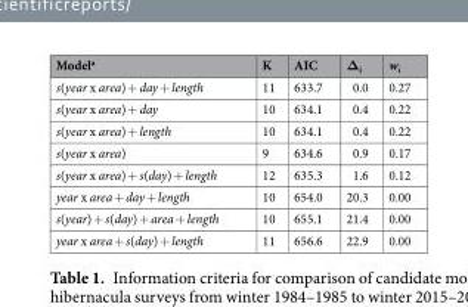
<table><thead><tr><td>Model<sup>a</sup></td><td>K</td><td>AIC</td><td>Δ<sub>i</sub></td><td>w<sub>i</sub></td></tr></thead><tbody><tr><td>s(year x area) + day + length</td><td>11</td><td>633.7</td><td>0.0</td><td>0.27</td></tr><tr><td>s(year x area) + day</td><td>10</td><td>634.1</td><td>0.4</td><td>0.22</td></tr><tr><td>s(year x area) + length</td><td>10</td><td>634.1</td><td>0.4</td><td>0.22</td></tr><tr><td>s(year x area)</td><td>9</td><td>634.6</td><td>0.9</td><td>0.17</td></tr><tr><td>s(year x area) + s(day) + length</td><td>12</td><td>635.3</td><td>1.6</td><td>0.12</td></tr><tr><td>year x area + day + length</td><td>10</td><td>654.0</td><td>20.3</td><td>0.00</td></tr><tr><td>s(year) + s(day) + area + length</td><td>10</td><td>655.1</td><td>21.4</td><td>0.00</td></tr><tr><td>year x area + s(day) + length</td><td>11</td><td>656.6</td><td>22.9</td><td>0.00</td></tr></tbody></table>